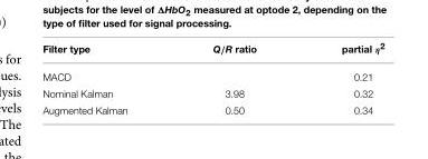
<table><thead><tr><td>Filter type</td><td>Q/R ratio</td><td>partial η<sup>2</sup></td></tr></thead><tbody><tr><td>MACD</td><td></td><td>0.21</td></tr><tr><td>Nominal Kalman</td><td>3.98</td><td>0.32</td></tr><tr><td>Augmented Kalman</td><td>0.50</td><td>0.34</td></tr></tbody></table>